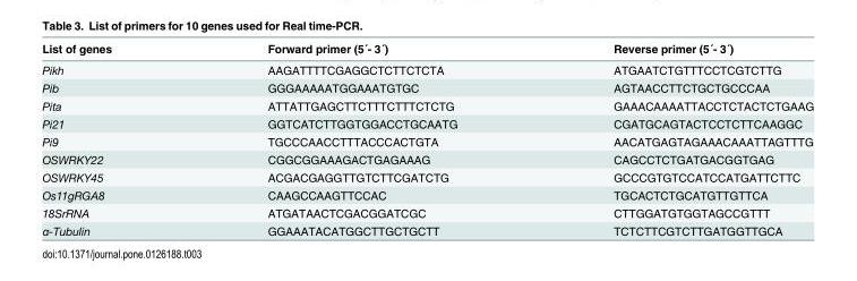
<table><thead><tr><td>List of genes</td><td>Forward primer (5´- 3´)</td><td>Reverse primer (5´- 3´)</td></tr></thead><tbody><tr><td>Pikh</td><td>AAGATTTTCGAGGCTCTTCTCTA</td><td>ATGAATCTGTTTCCTCGTCTTG</td></tr><tr><td>Pib</td><td>GGGAAAAATGGAAATGTGC</td><td>AGTAACCTTCTGCTGCCCAA</td></tr><tr><td>Pita</td><td>ATTATTGAGCTTCTTTCTTTCTCTG</td><td>GAAACAAAATTACCTCTACTCTGAAG</td></tr><tr><td>Pi21</td><td>GGTCATCTTGGTGGACCTGCAATG</td><td>CGATGCAGTACTCCTCTTCAAGGC</td></tr><tr><td>Pi9</td><td>TGCCCAACCTTTACCCACTGTA</td><td>AACATGAGTAGAAACAAATTAGTTTG</td></tr><tr><td>OSWRKY22</td><td>CGGCGGAAAGACTGAGAAAG</td><td>CAGCCTCTGATGACGGTGAG</td></tr><tr><td>OSWRKY45</td><td>ACGACGAGGTTGTCTTCGATCTG</td><td>GCCCGTGTCCATCCATGATTCTTC</td></tr><tr><td>Os11gRGA8</td><td>CAAGCCAAGTTCCAC</td><td>TGCACTCTGCATGTTGTTCA</td></tr><tr><td>18SrRNA</td><td>ATGATAACTCGACGGATCGC</td><td>CTTGGATGTGGTAGCCGTTT</td></tr><tr><td>α-Tubulin</td><td>GGAAATACATGGCTTGCTGCTT</td><td>TCTCTTCGTCTTGATGGTTGCA</td></tr></tbody></table>